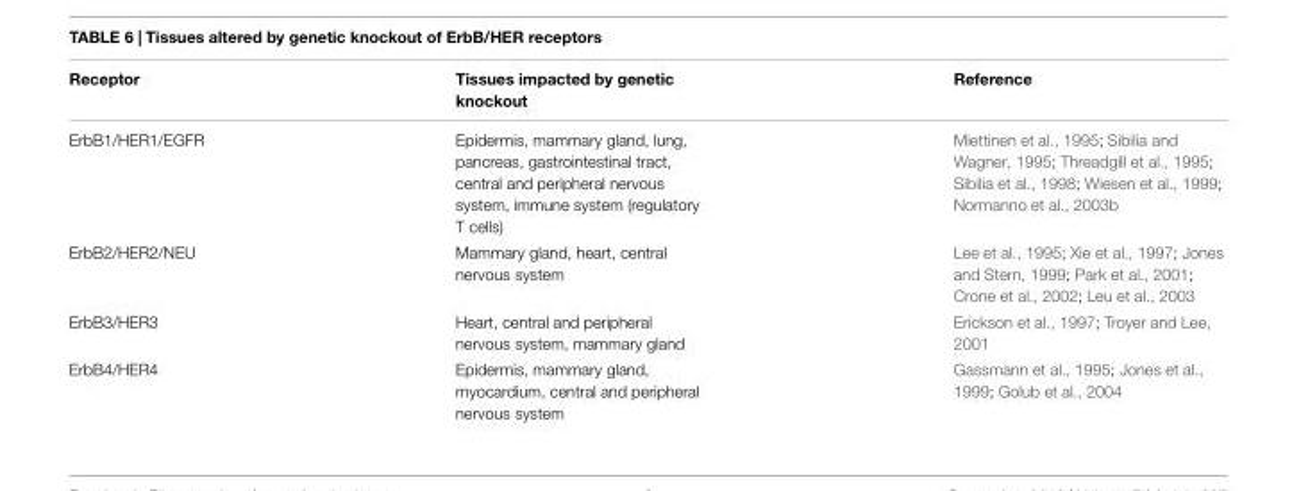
<table><thead><tr><td>Receptor</td><td>Tissues impacted by genetic knockout</td><td>Reference</td></tr></thead><tbody><tr><td>ErbB1/HER1/EGFR</td><td>Epidermis, mammary gland, lung, pancreas, gastrointestinal tract, central and peripheral nervous system, immune system (regulatory T cells)</td><td>Miettinen et al., 1995; Sibilia and Wagner, 1995; Threadgill et al., 1995; Sibilia et al., 1998; Wiesen et al., 1999; Normanno et al., 2003b</td></tr><tr><td>ErbB2/HER2/NEU</td><td>Mammary gland, heart, central nervous system</td><td>Lee et al., 1995; Xie et al., 1997; Jones and Stern, 1999; Park et al., 2001; Crone et al., 2002; Leu et al., 2003</td></tr><tr><td>ErbB3/HER3</td><td>Heart, central and peripheral nervous system, mammary gland</td><td>Erickson et al., 1997; Troyer and Lee, 2001</td></tr><tr><td>ErbB4/HER4</td><td>Epidermis, mammary gland, myocardium, central and peripheral nervous system</td><td>Gassmann et al., 1995; Jones et al., 1999; Golub et al., 2004</td></tr></tbody></table>